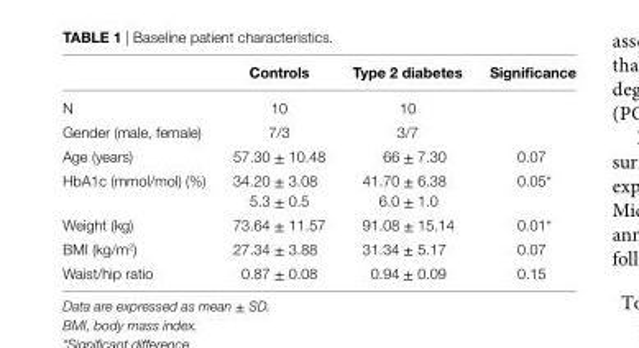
<table><thead><tr><td></td><td>controls</td><td>Type 2 diabetes</td><td>significance</td></tr></thead><tbody><tr><td>N</td><td>10</td><td>10</td><td></td></tr><tr><td>Gender (male, female)</td><td>7/3</td><td>3/7</td><td></td></tr><tr><td>Age (years)</td><td>57.30 ± 10.48</td><td>66 ± 7.30</td><td>0.07</td></tr><tr><td>HbA1c (mmol/mol) (%)</td><td>34.20 ± 3.08 5.3 ± 0.5</td><td>41.70 ± 6.38 6.0 ± 1.0</td><td>0.05*</td></tr><tr><td>Weight (kg)</td><td>73.64 ± 11.57</td><td>91.08 ± 15.14</td><td>0.01*</td></tr><tr><td>BMI (kg/m<sup>2</sup>)</td><td>27.34 ± 3.88</td><td>31.34 ± 5.17</td><td>0.07</td></tr><tr><td>Waist/hip ratio</td><td>0.87 ± 0.08</td><td>0.94 ± 0.09</td><td>0.15</td></tr></tbody></table>